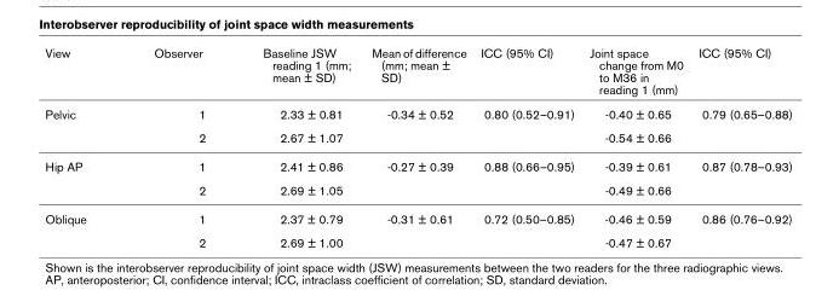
<table><thead><tr><td>View</td><td>Observer</td><td>Baseline JSW reading 1 (mm; mean ± SD)</td><td>Mean of difference (mm; mean ± SD)</td><td>ICC (95% CI)</td><td>Joint space change from M0 to M36 in reading 1 (mm)</td><td>ICC (95% CI)</td></tr></thead><tbody><tr><td rowspan="2">Pelvic</td><td>1</td><td>2.33 ± 0.81</td><td>-0.34 ± 0.52</td><td>0.80 (0.52–0.91)</td><td>-0.40 ± 0.65</td><td>0.79 (0.65–0.88)</td></tr><tr><td>2</td><td>2.67 ± 1.07</td><td></td><td></td><td>-0.54 ± 0.66</td><td></td></tr><tr><td rowspan="2">Hip AP</td><td>1</td><td>2.41 ± 0.86</td><td>-0.27 ± 0.39</td><td>0.88 (0.66–0.95)</td><td>-0.39 ± 0.61</td><td>0.87 (0.78–0.93)</td></tr><tr><td>2</td><td>2.69 ± 1.05</td><td></td><td></td><td>-0.49 ± 0.66</td><td></td></tr><tr><td rowspan="2">Oblique</td><td>1</td><td>2.37 ± 0.79</td><td>-0.31 ± 0.61</td><td>0.72 (0.50–0.85)</td><td>-0.46 ± 0.59</td><td>0.86 (0.76–0.92)</td></tr><tr><td>2</td><td>2.69 ± 1.00</td><td></td><td></td><td>-0.47 ± 0.67</td><td></td></tr></tbody></table>